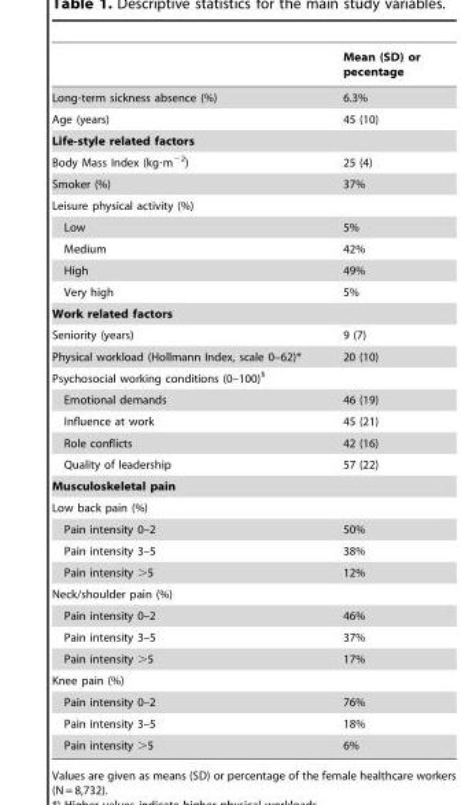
<table><thead><tr><td></td><td>Mean (SD) or pecentage</td></tr></thead><tbody><tr><td>Long-term sickness absence (%)</td><td>6.3%</td></tr><tr><td>Age (years)</td><td>45 (10)</td></tr><tr><td colspan="2">Life-style related factors</td></tr><tr><td>Body Mass Index (kg·m<sup>−2</sup>)</td><td>25 (4)</td></tr><tr><td>Smoker (%)</td><td>37%</td></tr><tr><td colspan="2">Leisure physical activity (%)</td></tr><tr><td>Low</td><td>5%</td></tr><tr><td>Medium</td><td>42%</td></tr><tr><td>High</td><td>49%</td></tr><tr><td>Very high</td><td>5%</td></tr><tr><td colspan="2">Work related factors</td></tr><tr><td>Seniority (years)</td><td>9 (7)</td></tr><tr><td>Physical workload (Hollmann Index, scale 0–62)*</td><td>20 (10)</td></tr><tr><td colspan="2">Psychosocial working conditions (0–100)§</td></tr><tr><td>Emotional demands</td><td>46 (19)</td></tr><tr><td>Influence at work</td><td>45 (21)</td></tr><tr><td>Role conflicts</td><td>42 (16)</td></tr><tr><td>Quality of leadership</td><td>57 (22)</td></tr><tr><td colspan="2">Musculoskeletal pain</td></tr><tr><td colspan="2">Low back pain (%)</td></tr><tr><td>Pain intensity 0–2</td><td>50%</td></tr><tr><td>Pain intensity 3–5</td><td>38%</td></tr><tr><td>Pain intensity &gt;5</td><td>12%</td></tr><tr><td colspan="2">Neck/shoulder pain (%)</td></tr><tr><td>Pain intensity 0–2</td><td>46%</td></tr><tr><td>Pain intensity 3–5</td><td>37%</td></tr><tr><td>Pain intensity &gt;5</td><td>17%</td></tr><tr><td colspan="2">Knee pain (%)</td></tr><tr><td>Pain intensity 0–2</td><td>76%</td></tr><tr><td>Pain intensity 3–5</td><td>18%</td></tr><tr><td>Pain intensity &gt;5</td><td>6%</td></tr></tbody></table>